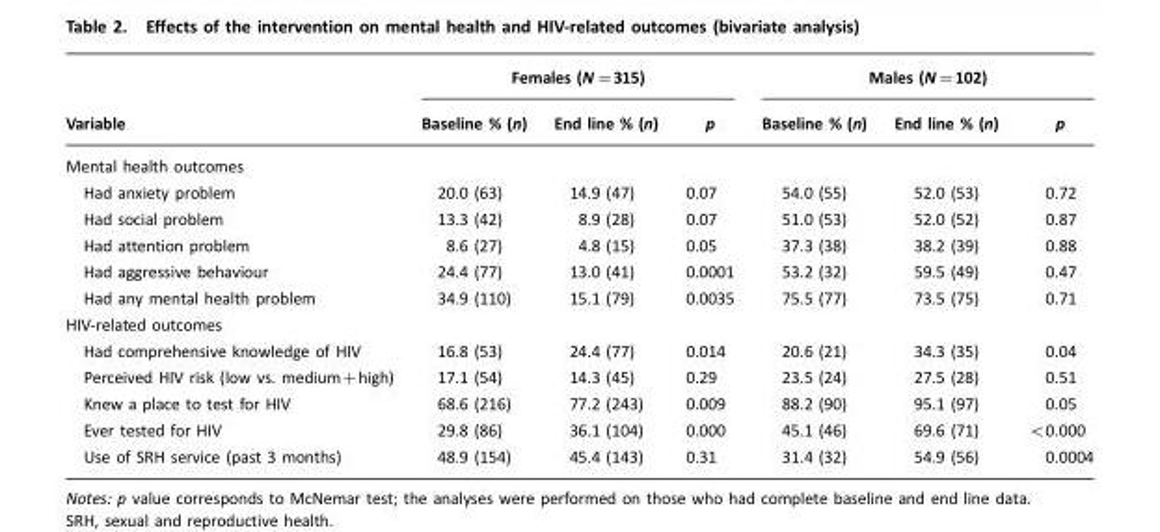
<table><thead><tr><td rowspan="2">Variable</td><td colspan="3">Females (N=315)</td><td colspan="3">Males (N=102)</td></tr><tr><td>Baseline % (n)</td><td>End line % (n)</td><td>p</td><td>Baseline % (n)</td><td>End line % (n)</td><td>p</td></tr></thead><tbody><tr><td colspan="7">Mental health outcomes</td></tr><tr><td>Had anxiety problem</td><td>20.0 (63)</td><td>14.9 (47)</td><td>0.07</td><td>54.0 (55)</td><td>52.0 (53)</td><td>0.72</td></tr><tr><td>Had social problem</td><td>13.3 (42)</td><td>8.9 (28)</td><td>0.07</td><td>51.0 (53)</td><td>52.0 (52)</td><td>0.87</td></tr><tr><td>Had attention problem</td><td>8.6 (27)</td><td>4.8 (15)</td><td>0.05</td><td>37.3 (38)</td><td>38.2 (39)</td><td>0.88</td></tr><tr><td>Had aggressive behaviour</td><td>24.4 (77)</td><td>13.0 (41)</td><td>0.0001</td><td>53.2 (32)</td><td>59.5 (49)</td><td>0.47</td></tr><tr><td>Had any mental health problem</td><td>34.9 (110)</td><td>15.1 (79)</td><td>0.0035</td><td>75.5 (77)</td><td>73.5 (75)</td><td>0.71</td></tr><tr><td colspan="7">HIV-related outcomes</td></tr><tr><td>Had comprehensive knowledge of HIV</td><td>16.8 (53)</td><td>24.4 (77)</td><td>0.014</td><td>20.6 (21)</td><td>34.3 (35)</td><td>0.04</td></tr><tr><td>Perceived HIV risk (low vs. medium+high)</td><td>17.1 (54)</td><td>14.3 (45)</td><td>0.29</td><td>23.5 (24)</td><td>27.5 (28)</td><td>0.51</td></tr><tr><td>Knew a place to test for HIV</td><td>68.6 (216)</td><td>77.2 (243)</td><td>0.009</td><td>88.2 (90)</td><td>95.1 (97)</td><td>0.05</td></tr><tr><td>Ever tested for HIV</td><td>29.8 (86)</td><td>36.1 (104)</td><td>0.000</td><td>45.1 (46)</td><td>69.6 (71)</td><td>&lt;0.000</td></tr><tr><td>Use of SRH service (past 3 months)</td><td>48.9 (154)</td><td>45.4 (143)</td><td>0.31</td><td>31.4 (32)</td><td>54.9 (56)</td><td>0.0004</td></tr></tbody></table>